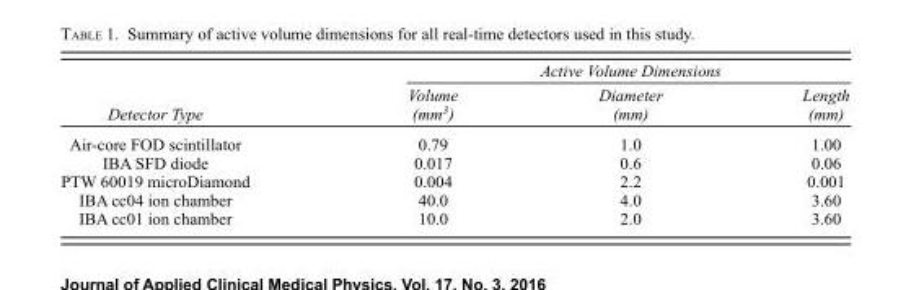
<table><thead><tr><td rowspan="2">Detector Type</td><td colspan="3">Active Volume Dimensions</td></tr><tr><td>Volume (mm<sup>3</sup>)</td><td>Diameter (mm)</td><td>Length (mm)</td></tr></thead><tbody><tr><td>Air-core FOD scintillator</td><td>0.79</td><td>1.0</td><td>1.00</td></tr><tr><td>IBA SFD diode</td><td>0.017</td><td>0.6</td><td>0.06</td></tr><tr><td>PTW 60019 microDiamond</td><td>0.004</td><td>2.2</td><td>0.001</td></tr><tr><td>IBA cc04 ion chamber</td><td>40.0</td><td>4.0</td><td>3.60</td></tr><tr><td>IBA cc01 ion chamber</td><td>10.0</td><td>2.0</td><td>3.60</td></tr></tbody></table>